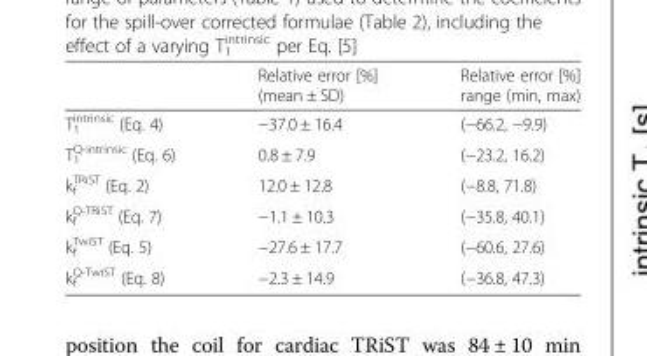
<table><thead><tr><td></td><td>Relative error [%] (mean ± SD)</td><td>Relative error [%] range (min, max)</td></tr></thead><tbody><tr><td>T<sub>1</sub> <sup>intrinsic</sup> (Eq. 4)</td><td>−37.0 ± 16.4</td><td>(−66.2, −9.9)</td></tr><tr><td>T<sub>1</sub> <sup>Q-intrinsic</sup> (Eq. 6)</td><td>0.8 ± 7.9</td><td>(−23.2, 16.2)</td></tr><tr><td>k<sub>f</sub> <sup>TRiST</sup> (Eq. 2)</td><td>12.0 ± 12.8</td><td>(−8.8, 71.8)</td></tr><tr><td>k<sub>f</sub> <sup>Q-TRiST</sup> (Eq. 7)</td><td>−1.1 ± 10.3</td><td>(−35.8, 40.1)</td></tr><tr><td>k<sub>f</sub> <sup>TwiST</sup> (Eq. 5)</td><td>−27.6 ± 17.7</td><td>(−60.6, 27.6)</td></tr><tr><td>k<sub>f</sub> <sup>Q-TwiST</sup> (Eq. 8)</td><td>−2.3 ± 14.9</td><td>(−36.8, 47.3)</td></tr></tbody></table>